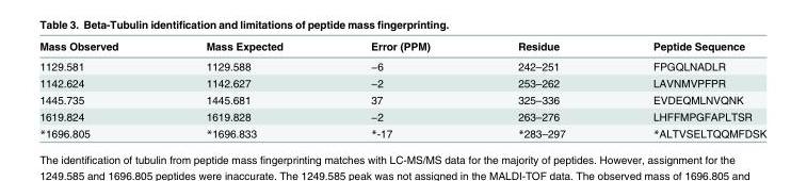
<table><thead><tr><td>Mass Observed</td><td>Mass Expected</td><td>Error (PPM)</td><td>Residue</td><td>Peptide Sequence</td></tr></thead><tbody><tr><td>1129.581</td><td>1129.588</td><td>−6</td><td>242–251</td><td>FPGQLNADLR</td></tr><tr><td>1142.624</td><td>1142.627</td><td>−2</td><td>253–262</td><td>LAVNMVPFPR</td></tr><tr><td>1445.735</td><td>1445.681</td><td>37</td><td>325–336</td><td>EVDEQMLNVQNK</td></tr><tr><td>1619.824</td><td>1619.828</td><td>−2</td><td>263–276</td><td>LHFFMPGFAPLTSR</td></tr><tr><td>*1696.805</td><td>*1696.833</td><td>*-17</td><td>*283–297</td><td>*ALTVSELTQQMFDSK</td></tr></tbody></table>